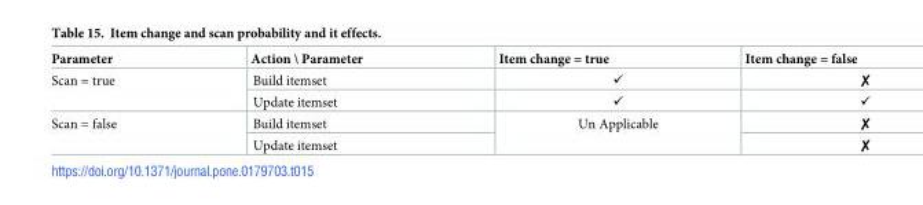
<table><thead><tr><td>Parameter</td><td>Action \ Parameter</td><td>Item change = true</td><td>Item change = false</td></tr></thead><tbody><tr><td rowspan="2">Scan = true</td><td>Build itemset</td><td>✓</td><td>✘</td></tr><tr><td>Update itemset</td><td>✓</td><td>✓</td></tr><tr><td rowspan="2">Scan = false</td><td>Build itemset</td><td rowspan="2">Un Applicable</td><td>✘</td></tr><tr><td>Update itemset</td><td>✘</td></tr></tbody></table>